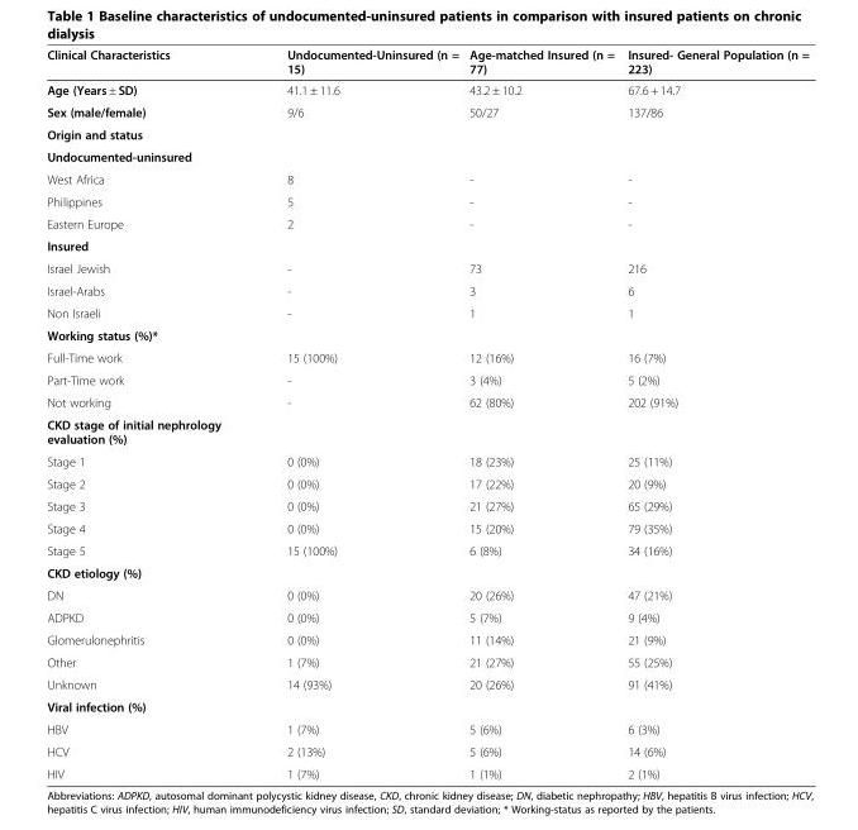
<table><thead><tr><td>Clinical Characteristics</td><td>Undocumented-Uninsured (n = 15)</td><td>Age-matched Insured (n = 77)</td><td>Insured- General Population (n = 223)</td></tr></thead><tbody><tr><td>Age (Years ± SD)</td><td>41.1 ± 11.6</td><td>43.2 ± 10.2</td><td>67.6 + 14.7</td></tr><tr><td>Sex (male/female)</td><td>9/6</td><td>50/27</td><td>137/86</td></tr><tr><td colspan="4">Origin and status</td></tr><tr><td colspan="4">Undocumented-uninsured</td></tr><tr><td>West Africa</td><td>8</td><td>-</td><td>-</td></tr><tr><td>Philippines</td><td>5</td><td>-</td><td>-</td></tr><tr><td>Eastern Europe</td><td>2</td><td>-</td><td>-</td></tr><tr><td colspan="4">Insured</td></tr><tr><td>Israel Jewish</td><td>-</td><td>73</td><td>216</td></tr><tr><td>Israel-Arabs</td><td>-</td><td>3</td><td>6</td></tr><tr><td>Non Israeli</td><td>-</td><td>1</td><td>1</td></tr><tr><td colspan="4">Working status (%)*</td></tr><tr><td>Full-Time work</td><td>15 (100%)</td><td>12 (16%)</td><td>16 (7%)</td></tr><tr><td>Part-Time work</td><td>-</td><td>3 (4%)</td><td>5 (2%)</td></tr><tr><td>Not working</td><td>-</td><td>62 (80%)</td><td>202 (91%)</td></tr><tr><td colspan="4">CKD stage of initial nephrology evaluation (%)</td></tr><tr><td>Stage 1</td><td>0 (0%)</td><td>18 (23%)</td><td>25 (11%)</td></tr><tr><td>Stage 2</td><td>0 (0%)</td><td>17 (22%)</td><td>20 (9%)</td></tr><tr><td>Stage 3</td><td>0 (0%)</td><td>21 (27%)</td><td>65 (29%)</td></tr><tr><td>Stage 4</td><td>0 (0%)</td><td>15 (20%)</td><td>79 (35%)</td></tr><tr><td>Stage 5</td><td>15 (100%)</td><td>6 (8%)</td><td>34 (16%)</td></tr><tr><td colspan="4">CKD etiology (%)</td></tr><tr><td>DN</td><td>0 (0%)</td><td>20 (26%)</td><td>47 (21%)</td></tr><tr><td>ADPKD</td><td>0 (0%)</td><td>5 (7%)</td><td>9 (4%)</td></tr><tr><td>Glomerulonephritis</td><td>0 (0%)</td><td>11 (14%)</td><td>21 (9%)</td></tr><tr><td>Other</td><td>1 (7%)</td><td>21 (27%)</td><td>55 (25%)</td></tr><tr><td>Unknown</td><td>14 (93%)</td><td>20 (26%)</td><td>91 (41%)</td></tr><tr><td colspan="4">Viral infection (%)</td></tr><tr><td>HBV</td><td>1 (7%)</td><td>5 (6%)</td><td>6 (3%)</td></tr><tr><td>HCV</td><td>2 (13%)</td><td>5 (6%)</td><td>14 (6%)</td></tr><tr><td>HIV</td><td>1 (7%)</td><td>1 (1%)</td><td>2 (1%)</td></tr></tbody></table>